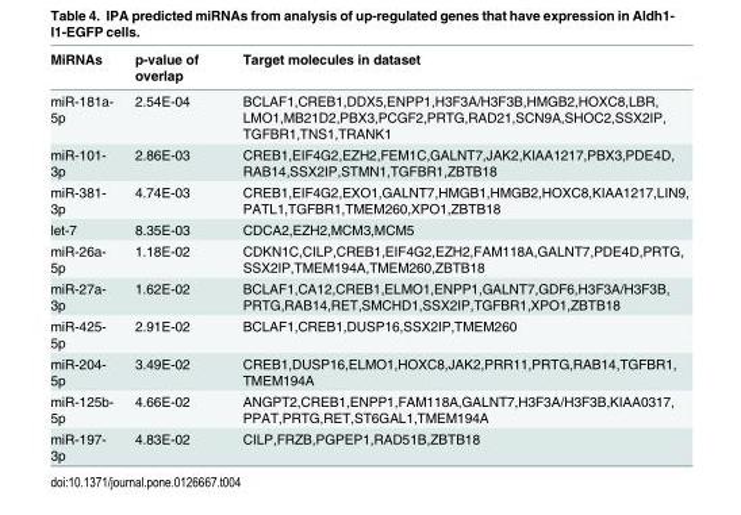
<table><thead><tr><td>MiRNAs</td><td>p-value of overlap</td><td>Target molecules in dataset</td></tr></thead><tbody><tr><td>miR-181a- 5p</td><td>2.54E-04</td><td>BCLAF1,CREB1,DDX5,ENPP1,H3F3A/H3F3B,HMGB2,HOXC8,LBR, LMO1,MB21D2,PBX3,PCGF2,PRTG,RAD21,SCN9A,SHOC2,SSX2IP, TGFBR1,TNS1,TRANK1</td></tr><tr><td>miR-101- 3p</td><td>2.86E-03</td><td>CREB1,EIF4G2,EZH2,FEM1C,GALNT7,JAK2,KIAA1217,PBX3,PDE4D, RAB14,SSX2IP,STMN1,TGFBR1,ZBTB18</td></tr><tr><td>miR-381- 3p</td><td>4.74E-03</td><td>CREB1,EIF4G2,EXO1,GALNT7,HMGB1,HMGB2,HOXC8,KIAA1217,LIN9, PATL1,TGFBR1,TMEM260,XPO1,ZBTB18</td></tr><tr><td>let-7</td><td>8.35E-03</td><td>CDCA2,EZH2,MCM3,MCM5</td></tr><tr><td>miR-26a- 5p</td><td>1.18E-02</td><td>CDKN1C,CILP,CREB1,EIF4G2,EZH2,FAM118A,GALNT7,PDE4D,PRTG, SSX2IP,TMEM194A,TMEM260,ZBTB18</td></tr><tr><td>miR-27a- 3p</td><td>1.62E-02</td><td>BCLAF1,CA12,CREB1,ELMO1,ENPP1,GALNT7,GDF6,H3F3A/H3F3B, PRTG,RAB14,RET,SMCHD1,SSX2IP,TGFBR1,XPO1,ZBTB18</td></tr><tr><td>miR-425- 5p</td><td>2.91E-02</td><td>BCLAF1,CREB1,DUSP16,SSX2IP,TMEM260</td></tr><tr><td>miR-204- 5p</td><td>3.49E-02</td><td>CREB1,DUSP16,ELMO1,HOXC8,JAK2,PRR11,PRTG,RAB14,TGFBR1, TMEM194A</td></tr><tr><td>miR-125b- 5p</td><td>4.66E-02</td><td>ANGPT2,CREB1,ENPP1,FAM118A,GALNT7,H3F3A/H3F3B,KIAA0317, PPAT,PRTG,RET,ST6GAL1,TMEM194A</td></tr><tr><td>miR-197- 3p</td><td>4.83E-02</td><td>CILP,FRZB,PGPEP1,RAD51B,ZBTB18</td></tr></tbody></table>